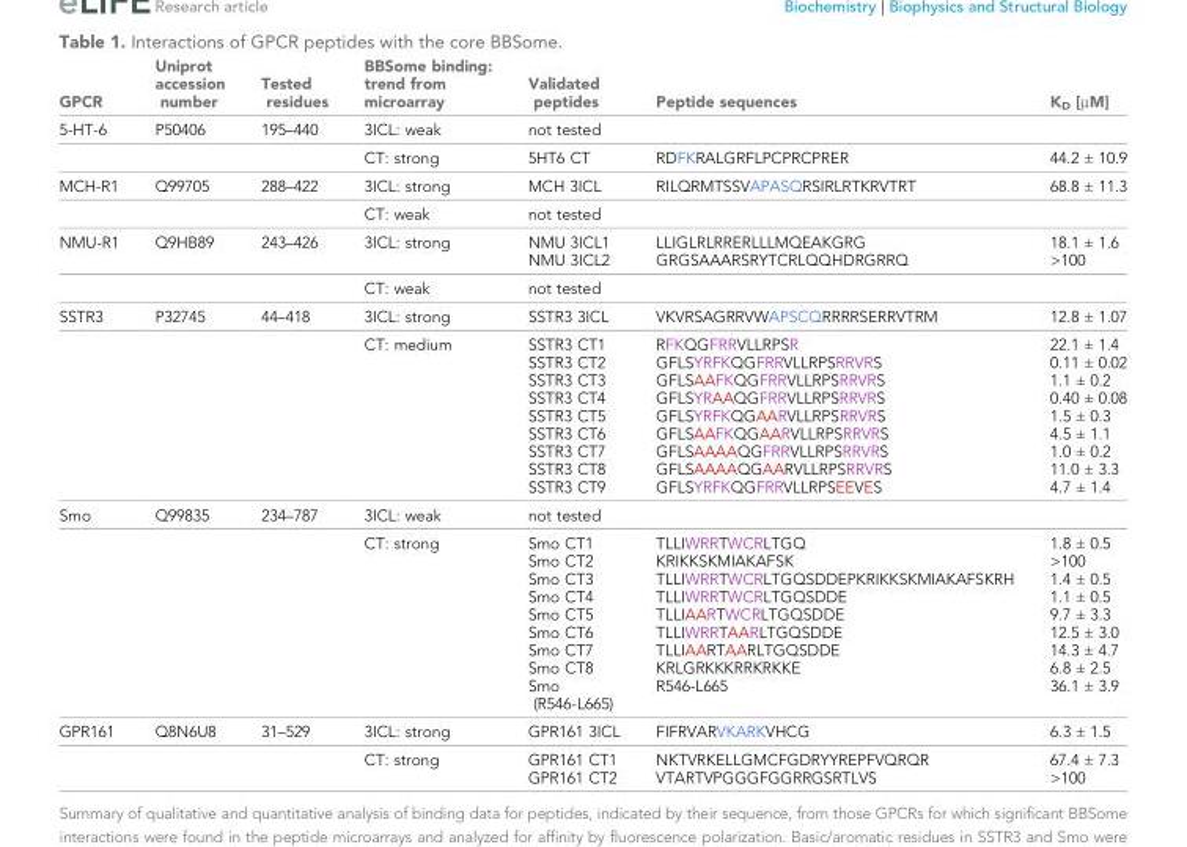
<table><thead><tr><td>GPCR</td><td>Uniprot accession number</td><td>Tested residues</td><td>BBSome binding: trend from microarray</td><td>Validated peptides</td><td>Peptide sequences</td><td>K<sub>D</sub> [µM]</td></tr></thead><tbody><tr><td rowspan="2">5-HT-6</td><td>P50406</td><td>195–440</td><td>3ICL: weak</td><td>not tested</td><td></td><td></td></tr><tr><td></td><td></td><td>CT: strong</td><td>5HT6 CT</td><td>RDFKRALGRFLPCPRCPRER</td><td>44.2 ± 10.9</td></tr><tr><td rowspan="2">MCH-R1</td><td>Q99705</td><td>288–422</td><td>3ICL: strong</td><td>MCH 3ICL</td><td>RILQRMTSSVAPASQRSIRLRTKRVTRT</td><td>68.8 ± 11.3</td></tr><tr><td></td><td></td><td>CT: weak</td><td>not tested</td><td></td><td></td></tr><tr><td rowspan="2">NMU-R1</td><td>Q9HB89</td><td>243–426</td><td>3ICL: strong</td><td>NMU 3ICL1 NMU 3ICL2</td><td>LLIGLRLRRERLLLMQEAKGRG GRGSAAARSRYTCRLQQHDRGRRQ</td><td>18.1 ± 1.6 &gt;100</td></tr><tr><td></td><td></td><td>CT: weak</td><td>not tested</td><td></td><td></td></tr><tr><td rowspan="2">SSTR3</td><td>P32745</td><td>44–418</td><td>3ICL: strong</td><td>SSTR3 3ICL</td><td>VKVRSAGRRVWAPSCQRRRRSERRVTRM</td><td>12.8 ± 1.07</td></tr><tr><td></td><td></td><td>CT: medium</td><td>SSTR3 CT1 SSTR3 CT2 SSTR3 CT3 SSTR3 CT4 SSTR3 CT5 SSTR3 CT6 SSTR3 CT7 SSTR3 CT8 SSTR3 CT9</td><td>RFKQGFRRVLLRPSR GFLSYRFKQGFRRVLLRPSRRVRS GFLSAAFKQGFRRVLLRPSRRVRS GFLSYRAAQGFRRVLLRPSRRVRS GFLSYRFKQGAARVLLRPSRRVRS GFLSAAFKQGAARVLLRPSRRVRS GFLSAAAAQGFRRVLLRPSRRVRS GFLSAAAAQGAARVLLRPSRRVRS GFLSYRFKQGFRRVLLRPSEEVES</td><td>22.1 ± 1.4 0.11 ± 0.02 1.1 ± 0.2 0.40 ± 0.08 1.5 ± 0.3 4.5 ± 1.1 1.0 ± 0.2 11.0 ± 3.3 4.7 ± 1.4</td></tr><tr><td rowspan="2">Smo</td><td>Q99835</td><td>234–787</td><td>3ICL: weak</td><td>not tested</td><td></td><td></td></tr><tr><td></td><td></td><td>CT: strong</td><td>Smo CT1 Smo CT2 Smo CT3 Smo CT4 Smo CT5 Smo CT6 Smo CT7 Smo CT8 Smo (R546-L665)</td><td>TLLIWRRTWCRLTGQ KRIKKSKMIAKAFSK TLLIWRRTWCRLTGQSDDEPKRIKKSKMIAKAFSKRH TLLIWRRTWCRLTGQSDDE TLLIAARTWCRLTGQSDDE TLLIWRRTAARLTGQSDDE TLLIAARTAARLTGQSDDE KRLGRKKKRRKRKKE R546-L665</td><td>1.8 ± 0.5 &gt;100 1.4 ± 0.5 1.1 ± 0.5 9.7 ± 3.3 12.5 ± 3.0 14.3 ± 4.7 6.8 ± 2.5 36.1 ± 3.9</td></tr><tr><td rowspan="2">GPR161</td><td>Q8N6U8</td><td>31–529</td><td>3ICL: strong</td><td>GPR161 3ICL</td><td>FIFRVARVKARKVHCG</td><td>6.3 ± 1.5</td></tr><tr><td></td><td></td><td>CT: strong</td><td>GPR161 CT1 GPR161 CT2</td><td>NKTVRKELLGMCFGDRYYREPFVQRQR VTARTVPGGGFGGRRGSRTLVS</td><td>67.4 ± 7.3 &gt;100</td></tr></tbody></table>